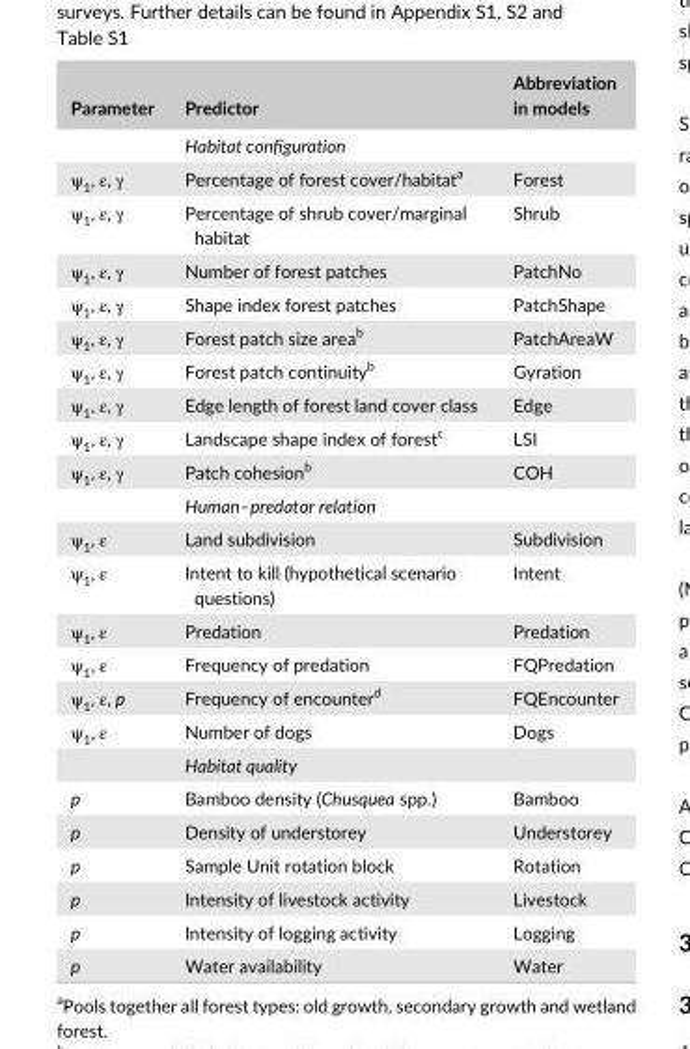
<table><thead><tr><td>Parameter</td><td>Predictor</td><td>Abbreviation in models</td></tr></thead><tbody><tr><td></td><td colspan="2">Habitat configuration</td></tr><tr><td>ψ<sub>1</sub>, ε, γ</td><td>Percentage of forest cover/habitat<sup>a</sup></td><td>Forest</td></tr><tr><td>ψ<sub>1</sub>, ε, γ</td><td>Percentage of shrub cover/marginal habitat</td><td>Shrub</td></tr><tr><td>ψ<sub>1</sub>, ε, γ</td><td>Number of forest patches</td><td>PatchNo</td></tr><tr><td>ψ<sub>1</sub>, ε, γ</td><td>Shape index forest patches</td><td>PatchShape</td></tr><tr><td>ψ<sub>1</sub>, ε, γ</td><td>Forest patch size area<sup>b</sup></td><td>PatchAreaW</td></tr><tr><td>ψ<sub>1</sub>, ε, γ</td><td>Forest patch continuity<sup>b</sup></td><td>Gyration</td></tr><tr><td>ψ<sub>1</sub>, ε, γ</td><td>Edge length of forest land cover class</td><td>Edge</td></tr><tr><td>ψ<sub>1</sub>, ε, γ</td><td>Landscape shape index of forest<sup>c</sup></td><td>LSI</td></tr><tr><td rowspan="2">ψ<sub>1</sub>, ε, γ</td><td>Patch cohesion<sup>b</sup></td><td>COH</td></tr><tr><td colspan="2">Human–predator relation</td></tr><tr><td>ψ<sub>1</sub>, ε</td><td>Land subdivision</td><td>Subdivision</td></tr><tr><td>ψ<sub>1</sub>, ε</td><td>Intent to kill (hypothetical scenario questions)</td><td>Intent</td></tr><tr><td>ψ<sub>1</sub>, ε</td><td>Predation</td><td>Predation</td></tr><tr><td>ψ<sub>1</sub>, ε</td><td>Frequency of predation</td><td>FQPredation</td></tr><tr><td>ψ<sub>1</sub>, ε, p</td><td>Frequency of encounter<sup>d</sup></td><td>FQEncounter</td></tr><tr><td rowspan="2">ψ<sub>1</sub>, ε</td><td>Number of dogs</td><td>Dogs</td></tr><tr><td colspan="2">Habitat quality</td></tr><tr><td>p</td><td>Bamboo density (Chusquea spp.)</td><td>Bamboo</td></tr><tr><td>p</td><td>Density of understorey</td><td>Understorey</td></tr><tr><td>p</td><td>Sample Unit rotation block</td><td>Rotation</td></tr><tr><td>p</td><td>Intensity of livestock activity</td><td>Livestock</td></tr><tr><td>p</td><td>Intensity of logging activity</td><td>Logging</td></tr><tr><td>p</td><td>Water availability</td><td>Water</td></tr></tbody></table>